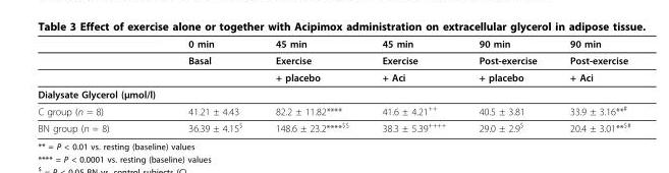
<table><thead><tr><td></td><td>0 min</td><td>45 min</td><td>45 min</td><td>90 min</td><td>90 min</td></tr></thead><tbody><tr><td></td><td>Basal</td><td>Exercise</td><td>Exercise</td><td>Post-exercise</td><td>Post-exercise</td></tr><tr><td></td><td></td><td>+ placebo</td><td>+ Aci</td><td>+ placebo</td><td>+ Aci</td></tr><tr><td colspan="6">Dialysate Glycerol (μmol/l)</td></tr><tr><td>C group (n = 8)</td><td>41.21 ± 4.43</td><td>82.2 ± 11.82****</td><td>41.6 ± 4.21++</td><td>40.5 ± 3.81</td><td>33.9 ± 3.16**#</td></tr><tr><td>BN group (n = 8)</td><td>36.39 ± 4.15$</td><td>148.6 ± 23.2****$$</td><td>38.3 ± 5.39++++</td><td>29.0 ± 2.9$</td><td>20.4 ± 3.01**$#</td></tr></tbody></table>